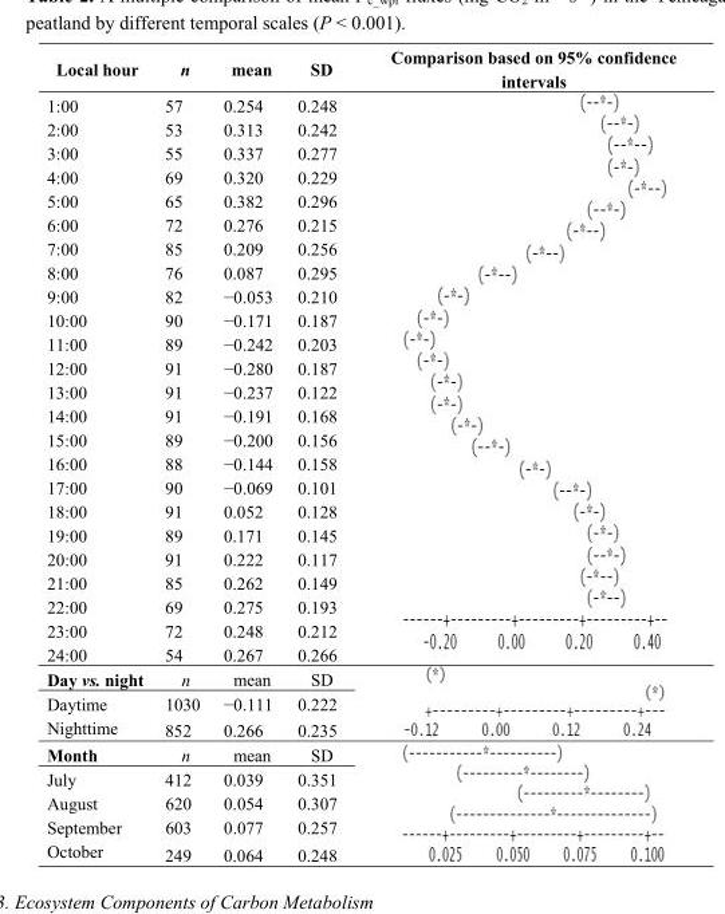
<table><thead><tr><td>Local hour</td><td>n</td><td>mean</td><td>SD</td><td>Comparison based on 95% confidence intervals</td></tr></thead><tbody><tr><td>1:00</td><td>57</td><td>0.254</td><td>0.248</td><td rowspan="24"></td></tr><tr><td>2:00</td><td>53</td><td>0.313</td><td>0.242</td></tr><tr><td>3:00</td><td>55</td><td>0.337</td><td>0.277</td></tr><tr><td>4:00</td><td>69</td><td>0.320</td><td>0.229</td></tr><tr><td>5:00</td><td>65</td><td>0.382</td><td>0.296</td></tr><tr><td>6:00</td><td>72</td><td>0.276</td><td>0.215</td></tr><tr><td>7:00</td><td>85</td><td>0.209</td><td>0.256</td></tr><tr><td>8:00</td><td>76</td><td>0.087</td><td>0.295</td></tr><tr><td>9:00</td><td>82</td><td>−0.053</td><td>0.210</td></tr><tr><td>10:00</td><td>90</td><td>−0.171</td><td>0.187</td></tr><tr><td>11:00</td><td>89</td><td>−0.242</td><td>0.203</td></tr><tr><td>12:00</td><td>91</td><td>−0.280</td><td>0.187</td></tr><tr><td>13:00</td><td>91</td><td>−0.237</td><td>0.122</td></tr><tr><td>14:00</td><td>91</td><td>−0.191</td><td>0.168</td></tr><tr><td>15:00</td><td>89</td><td>−0.200</td><td>0.156</td></tr><tr><td>16:00</td><td>88</td><td>−0.144</td><td>0.158</td></tr><tr><td>17:00</td><td>90</td><td>−0.069</td><td>0.101</td></tr><tr><td>18:00</td><td>91</td><td>0.052</td><td>0.128</td></tr><tr><td>19:00</td><td>89</td><td>0.171</td><td>0.145</td></tr><tr><td>20:00</td><td>91</td><td>0.222</td><td>0.117</td></tr><tr><td>21:00</td><td>85</td><td>0.262</td><td>0.149</td></tr><tr><td>22:00</td><td>69</td><td>0.275</td><td>0.193</td></tr><tr><td>23:00</td><td>72</td><td>0.248</td><td>0.212</td></tr><tr><td>24:00</td><td>54</td><td>0.267</td><td>0.266</td></tr><tr><td>Day vs. night</td><td>n</td><td>mean</td><td>SD</td><td rowspan="3"></td></tr><tr><td>Daytime</td><td>1030</td><td>−0.111</td><td>0.222</td></tr><tr><td>Nighttime</td><td>852</td><td>0.266</td><td>0.235</td></tr><tr><td>Month</td><td>n</td><td>mean</td><td>SD</td><td rowspan="5"></td></tr><tr><td>July</td><td>412</td><td>0.039</td><td>0.351</td></tr><tr><td>August</td><td>620</td><td>0.054</td><td>0.307</td></tr><tr><td>September</td><td>603</td><td>0.077</td><td>0.257</td></tr><tr><td>October</td><td>249</td><td>0.064</td><td>0.248</td></tr></tbody></table>